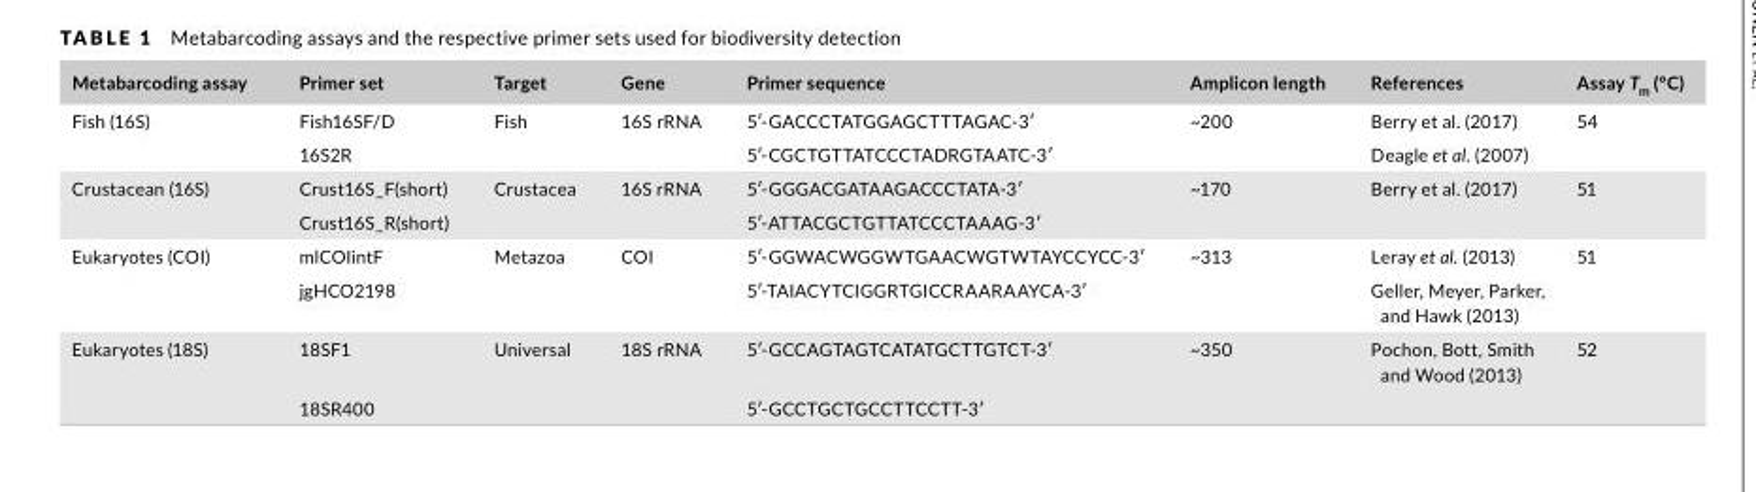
<table><thead><tr><td>Metabarcoding assay</td><td>Primer set</td><td>Target</td><td>Gene</td><td>Primer sequence</td><td>Amplicon length</td><td>References</td><td>Assay T<sub>m</sub> (°C)</td></tr></thead><tbody><tr><td rowspan="2">Fish (16S)</td><td>Fish16SF/D</td><td rowspan="2">Fish</td><td rowspan="2">16S rRNA</td><td>5′‐GACCCTATGGAGCTTTAGAC‐3′</td><td rowspan="2">~200</td><td>Berry et al. (2017)</td><td rowspan="2">54</td></tr><tr><td>16S2R</td><td>5′‐CGCTGTTATCCCTADRGTAATC‐3′</td><td>Deagle et al. (2007)</td></tr><tr><td rowspan="2">Crustacean (16S)</td><td>Crust16S_F(short)</td><td rowspan="2">Crustacea</td><td rowspan="2">16S rRNA</td><td>5′‐GGGACGATAAGACCCTATA‐3′</td><td rowspan="2">~170</td><td>Berry et al. (2017)</td><td rowspan="2">51</td></tr><tr><td>Crust16S_R(short)</td><td>5′‐ATTACGCTGTTATCCCTAAAG‐3′</td><td></td></tr><tr><td rowspan="2">Eukaryotes (COI)</td><td>mlCOIintF</td><td rowspan="2">Metazoa</td><td rowspan="2">COI</td><td>5′‐GGWACWGGWTGAACWGTWTAYCCYCC‐3′</td><td rowspan="2">~313</td><td>Leray et al. (2013)</td><td rowspan="2">51</td></tr><tr><td>jgHCO2198</td><td>5′‐TAIACYTCIGGRTGICCRAARAAYCA‐3′</td><td>Geller, Meyer, Parker, and Hawk (2013)</td></tr><tr><td rowspan="2">Eukaryotes (18S)</td><td>18SF1</td><td rowspan="2">Universal</td><td rowspan="2">18S rRNA</td><td>5′‐GCCAGTAGTCATATGCTTGTCT‐3′</td><td rowspan="2">~350</td><td>Pochon, Bott, Smith and Wood (2013)</td><td rowspan="2">52</td></tr><tr><td>18SR400</td><td>5′‐GCCTGCTGCCTTCCTT‐3′</td><td></td></tr></tbody></table>